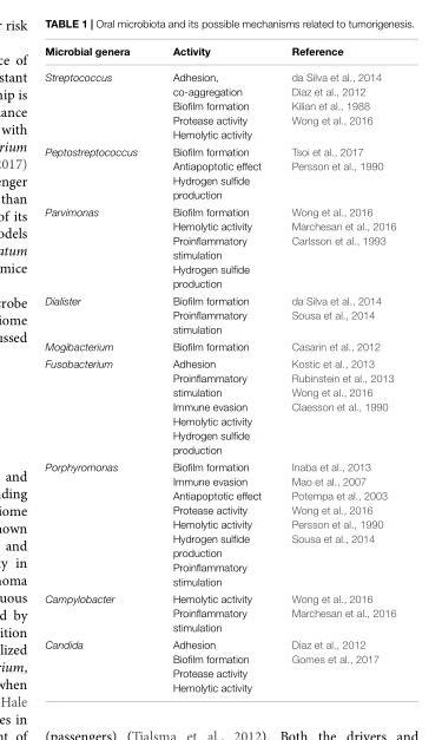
<table><thead><tr><td>Microbial genera</td><td>Activity</td><td>Reference</td></tr></thead><tbody><tr><td>Streptococcus</td><td>Adhesion, co-aggregation Biofilm formation Protease activity Hemolytic activity</td><td>da Silva et al., 2014 Diaz et al., 2012 Kilian et al., 1988 Wong et al., 2016</td></tr><tr><td>Peptostreptococcus</td><td>Biofilm formation Antiapoptotic effect Hydrogen sulfide production</td><td>Tsoi et al., 2017 Persson et al., 1990</td></tr><tr><td>Parvimonas</td><td>Biofilm formation Hemolytic activity Proinflammatory stimulation Hydrogen sulfide production</td><td>Wong et al., 2016 Marchesan et al., 2016 Carlsson et al., 1993</td></tr><tr><td>Dialister</td><td>Biofilm formation Proinflammatory stimulation</td><td>da Silva et al., 2014 Sousa et al., 2014</td></tr><tr><td>Mogibacterium</td><td>Biofilm formation</td><td>Casarin et al., 2012</td></tr><tr><td>Fusobacterium</td><td>Adhesion Proinflammatory stimulation Immune evasion Hemolytic activity Hydrogen sulfide production</td><td>Kostic et al., 2013 Rubinstein et al., 2013 Wong et al., 2016 Claesson et al., 1990</td></tr><tr><td>Porphyromonas</td><td>Biofilm formation Immune evasion Antiapoptotic effect Protease activity Hemolytic activity Hydrogen sulfide production Proinflammatory stimulation</td><td>Inaba et al., 2013 Mao et al., 2007 Potempa et al., 2003 Wong et al., 2016 Persson et al., 1990 Sousa et al., 2014</td></tr><tr><td>Campylobacter</td><td>Hemolytic activity Proinflammatory stimulation</td><td>Wong et al., 2016 Marchesan et al., 2016</td></tr><tr><td>Candida</td><td>Adhesion Biofilm formation Protease activity Hemolytic activity</td><td>Diaz et al., 2012 Gomes et al., 2017</td></tr></tbody></table>